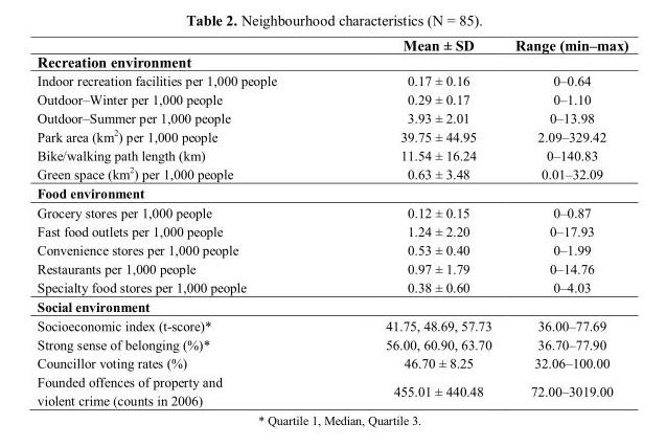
<table><thead><tr><td></td><td>Mean ± SD</td><td>Range (min–max)</td></tr></thead><tbody><tr><td colspan="3">Recreation environment</td></tr><tr><td>Indoor recreation facilities per 1,000 people</td><td>0.17 ± 0.16</td><td>0–0.64</td></tr><tr><td>Outdoor–Winter per 1,000 people</td><td>0.29 ± 0.17</td><td>0–1.10</td></tr><tr><td>Outdoor–Summer per 1,000 people</td><td>3.93 ± 2.01</td><td>0–13.98</td></tr><tr><td>Park area (km<sup>2</sup>) per 1,000 people</td><td>39.75 ± 44.95</td><td>2.09–329.42</td></tr><tr><td>Bike/walking path length (km)</td><td>11.54 ± 16.24</td><td>0–140.83</td></tr><tr><td>Green space (km<sup>2</sup>) per 1,000 people</td><td>0.63 ± 3.48</td><td>0.01–32.09</td></tr><tr><td colspan="3">Food environment</td></tr><tr><td>Grocery stores per 1,000 people</td><td>0.12 ± 0.15</td><td>0–0.87</td></tr><tr><td>Fast food outlets per 1,000 people</td><td>1.24 ± 2.20</td><td>0–17.93</td></tr><tr><td>Convenience stores per 1,000 people</td><td>0.53 ± 0.40</td><td>0–1.99</td></tr><tr><td>Restaurants per 1,000 people</td><td>0.97 ± 1.79</td><td>0–14.76</td></tr><tr><td>Specialty food stores per 1,000 people</td><td>0.38 ± 0.60</td><td>0–4.03</td></tr><tr><td colspan="3">Social environment</td></tr><tr><td>Socioeconomic index (t-score)*</td><td>41.75, 48.69, 57.73</td><td>36.00–77.69</td></tr><tr><td>Strong sense of belonging (%)*</td><td>56.00, 60.90, 63.70</td><td>36.70–77.90</td></tr><tr><td>Councillor voting rates (%)</td><td>46.70 ± 8.25</td><td>32.06–100.00</td></tr><tr><td>Founded offences of property and violent crime (counts in 2006)</td><td>455.01 ± 440.48</td><td>72.00–3019.00</td></tr></tbody></table>